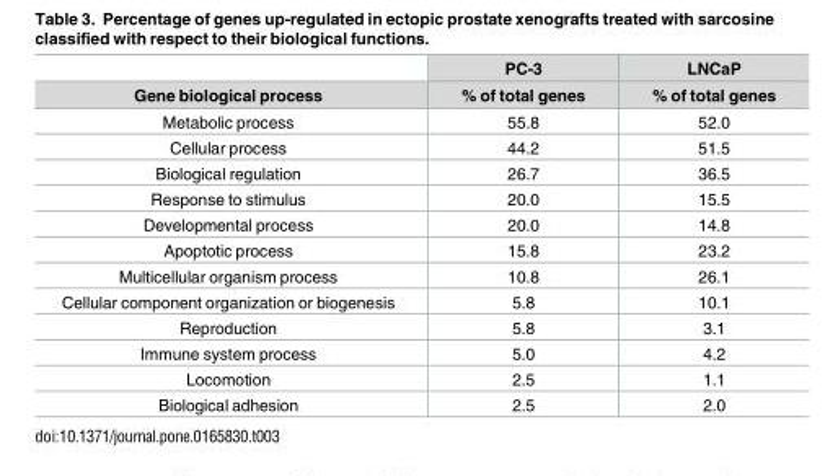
<table><thead><tr><td rowspan="2">Gene biological process</td><td rowspan="2">PC-3 % of total genes</td><td rowspan="2">LNCaP % of total genes</td></tr><tr></tr></thead><tbody><tr><td>Metabolic process</td><td>55.8</td><td>52.0</td></tr><tr><td>Cellular process</td><td>44.2</td><td>51.5</td></tr><tr><td>Biological regulation</td><td>26.7</td><td>36.5</td></tr><tr><td>Response to stimulus</td><td>20.0</td><td>15.5</td></tr><tr><td>Developmental process</td><td>20.0</td><td>14.8</td></tr><tr><td>Apoptotic process</td><td>15.8</td><td>23.2</td></tr><tr><td>Multicellular organism process</td><td>10.8</td><td>26.1</td></tr><tr><td>Cellular component organization or biogenesis</td><td>5.8</td><td>10.1</td></tr><tr><td>Reproduction</td><td>5.8</td><td>3.1</td></tr><tr><td>Immune system process</td><td>5.0</td><td>4.2</td></tr><tr><td>Locomotion</td><td>2.5</td><td>1.1</td></tr><tr><td>Biological adhesion</td><td>2.5</td><td>2.0</td></tr></tbody></table>